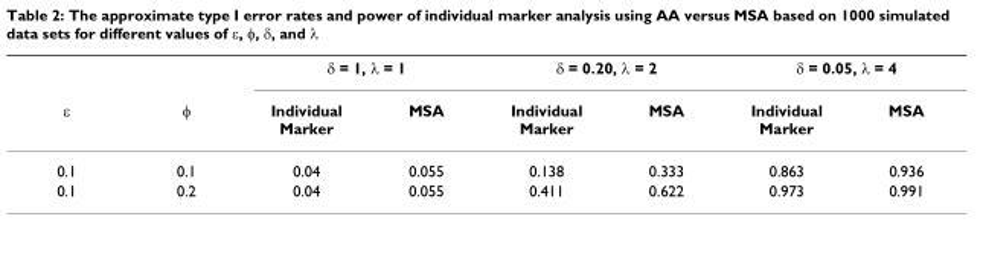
<table><thead><tr><td rowspan="2">ε</td><td rowspan="2">φ</td><td colspan="2">δ = 1, λ = 1</td><td colspan="2">δ = 0.20, λ = 2</td><td colspan="2">δ = 0.05, λ = 4</td></tr><tr><td>Individual Marker</td><td>MSA</td><td>Individual Marker</td><td>MSA</td><td>Individual Marker</td><td>MSA</td></tr></thead><tbody><tr><td>0.1</td><td>0.1</td><td>0.04</td><td>0.055</td><td>0.138</td><td>0.333</td><td>0.863</td><td>0.936</td></tr><tr><td>0.1</td><td>0.2</td><td>0.04</td><td>0.055</td><td>0.411</td><td>0.622</td><td>0.973</td><td>0.991</td></tr></tbody></table>